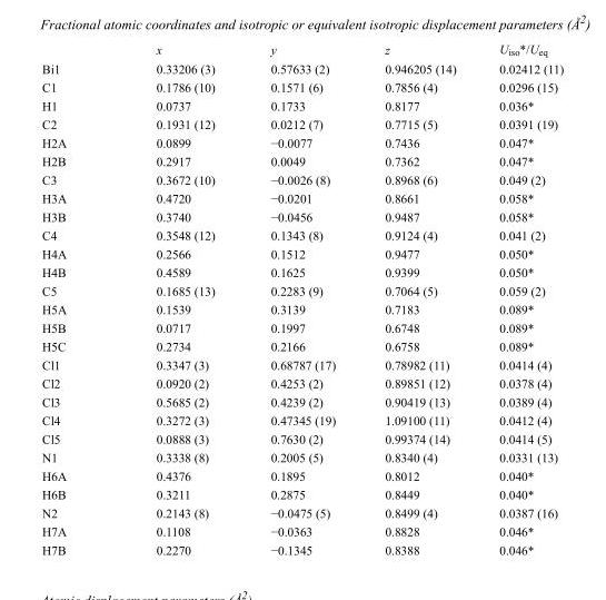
<table><thead><tr><td></td><td>x</td><td>y</td><td>z</td><td>U<sub>iso</sub>*/U<sub>eq</sub></td></tr></thead><tbody><tr><td>Bi1</td><td>0.33206 (3)</td><td>0.57633 (2)</td><td>0.946205 (14)</td><td>0.02412 (11)</td></tr><tr><td>C1</td><td>0.1786 (10)</td><td>0.1571 (6)</td><td>0.7856 (4)</td><td>0.0296 (15)</td></tr><tr><td>H1</td><td>0.0737</td><td>0.1733</td><td>0.8177</td><td>0.036*</td></tr><tr><td>C2</td><td>0.1931 (12)</td><td>0.0212 (7)</td><td>0.7715 (5)</td><td>0.0391 (19)</td></tr><tr><td>H2A</td><td>0.0899</td><td>−0.0077</td><td>0.7436</td><td>0.047*</td></tr><tr><td>H2B</td><td>0.2917</td><td>0.0049</td><td>0.7362</td><td>0.047*</td></tr><tr><td>C3</td><td>0.3672 (10)</td><td>−0.0026 (8)</td><td>0.8968 (6)</td><td>0.049 (2)</td></tr><tr><td>H3A</td><td>0.4720</td><td>−0.0201</td><td>0.8661</td><td>0.058*</td></tr><tr><td>H3B</td><td>0.3740</td><td>−0.0456</td><td>0.9487</td><td>0.058*</td></tr><tr><td>C4</td><td>0.3548 (12)</td><td>0.1343 (8)</td><td>0.9124 (4)</td><td>0.041 (2)</td></tr><tr><td>H4A</td><td>0.2566</td><td>0.1512</td><td>0.9477</td><td>0.050*</td></tr><tr><td>H4B</td><td>0.4589</td><td>0.1625</td><td>0.9399</td><td>0.050*</td></tr><tr><td>C5</td><td>0.1685 (13)</td><td>0.2283 (9)</td><td>0.7064 (5)</td><td>0.059 (2)</td></tr><tr><td>H5A</td><td>0.1539</td><td>0.3139</td><td>0.7183</td><td>0.089*</td></tr><tr><td>H5B</td><td>0.0717</td><td>0.1997</td><td>0.6748</td><td>0.089*</td></tr><tr><td>H5C</td><td>0.2734</td><td>0.2166</td><td>0.6758</td><td>0.089*</td></tr><tr><td>Cl1</td><td>0.3347 (3)</td><td>0.68787 (17)</td><td>0.78982 (11)</td><td>0.0414 (4)</td></tr><tr><td>Cl2</td><td>0.0920 (2)</td><td>0.4253 (2)</td><td>0.89851 (12)</td><td>0.0378 (4)</td></tr><tr><td>Cl3</td><td>0.5685 (2)</td><td>0.4239 (2)</td><td>0.90419 (13)</td><td>0.0389 (4)</td></tr><tr><td>Cl4</td><td>0.3272 (3)</td><td>0.47345 (19)</td><td>1.09100 (11)</td><td>0.0412 (4)</td></tr><tr><td>Cl5</td><td>0.0888 (3)</td><td>0.7630 (2)</td><td>0.99374 (14)</td><td>0.0414 (5)</td></tr><tr><td>N1</td><td>0.3338 (8)</td><td>0.2005 (5)</td><td>0.8340 (4)</td><td>0.0331 (13)</td></tr><tr><td>H6A</td><td>0.4376</td><td>0.1895</td><td>0.8012</td><td>0.040*</td></tr><tr><td>H6B</td><td>0.3211</td><td>0.2875</td><td>0.8449</td><td>0.040*</td></tr><tr><td>N2</td><td>0.2143 (8)</td><td>−0.0475 (5)</td><td>0.8499 (4)</td><td>0.0387 (16)</td></tr><tr><td>H7A</td><td>0.1108</td><td>−0.0363</td><td>0.8828</td><td>0.046*</td></tr><tr><td>H7B</td><td>0.2270</td><td>−0.1345</td><td>0.8388</td><td>0.046*</td></tr></tbody></table>